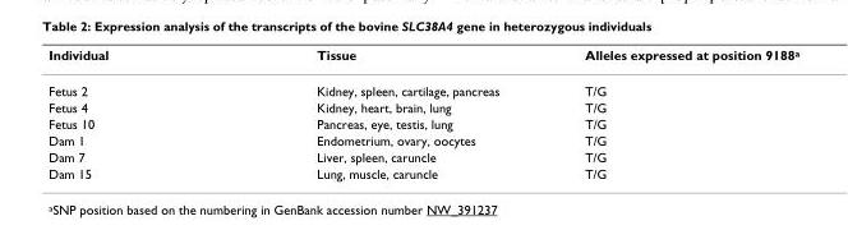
<table><thead><tr><td>Individual</td><td>Tissue</td><td>Alleles expressed at position 9188<sup>a</sup></td></tr></thead><tbody><tr><td>Fetus 2</td><td>Kidney, spleen, cartilage, pancreas</td><td>T/G</td></tr><tr><td>Fetus 4</td><td>Kidney, heart, brain, lung</td><td>T/G</td></tr><tr><td>Fetus 10</td><td>Pancreas, eye, testis, lung</td><td>T/G</td></tr><tr><td>Dam 1</td><td>Endometrium, ovary, oocytes</td><td>T/G</td></tr><tr><td>Dam 7</td><td>Liver, spleen, caruncle</td><td>T/G</td></tr><tr><td>Dam 15</td><td>Lung, muscle, caruncle</td><td>T/G</td></tr></tbody></table>